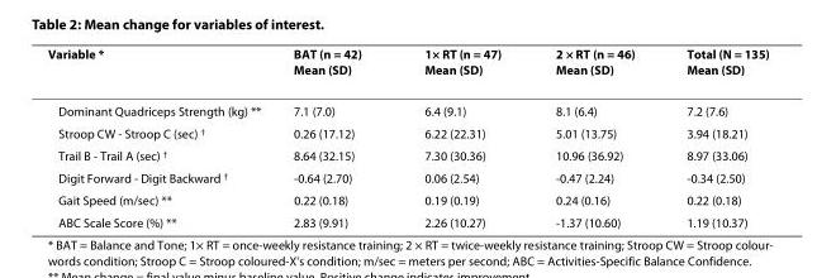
<table><thead><tr><td>Variable *</td><td>BAT (n = 42) Mean (SD)</td><td>1× RT (n = 47) Mean (SD)</td><td>2 × RT (n = 46) Mean (SD)</td><td>Total (N = 135) Mean (SD)</td></tr></thead><tbody><tr><td>Dominant Quadriceps Strength (kg) **</td><td>7.1 (7.0)</td><td>6.4 (9.1)</td><td>8.1 (6.4)</td><td>7.2 (7.6)</td></tr><tr><td>Stroop CW - Stroop C (sec) †</td><td>0.26 (17.12)</td><td>6.22 (22.31)</td><td>5.01 (13.75)</td><td>3.94 (18.21)</td></tr><tr><td>Trail B - Trail A (sec) †</td><td>8.64 (32.15)</td><td>7.30 (30.36)</td><td>10.96 (36.92)</td><td>8.97 (33.06)</td></tr><tr><td>Digit Forward - Digit Backward †</td><td>-0.64 (2.70)</td><td>0.06 (2.54)</td><td>-0.47 (2.24)</td><td>-0.34 (2.50)</td></tr><tr><td>Gait Speed (m/sec) **</td><td>0.22 (0.18)</td><td>0.19 (0.19)</td><td>0.24 (0.16)</td><td>0.22 (0.18)</td></tr><tr><td>ABC Scale Score (%) **</td><td>2.83 (9.91)</td><td>2.26 (10.27)</td><td>-1.37 (10.60)</td><td>1.19 (10.37)</td></tr></tbody></table>